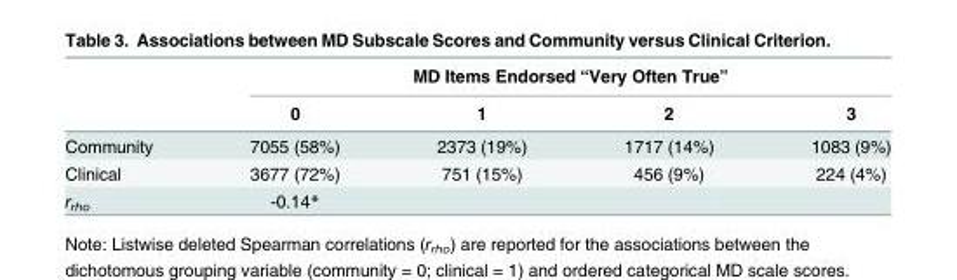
<table><thead><tr><td rowspan="2"></td><td colspan="4">MD Items Endorsed “Very Often True”</td></tr><tr><td>0</td><td>1</td><td>2</td><td>3</td></tr></thead><tbody><tr><td>Community</td><td>7055 (58%)</td><td>2373 (19%)</td><td>1717 (14%)</td><td>1083 (9%)</td></tr><tr><td>Clinical</td><td>3677 (72%)</td><td>751 (15%)</td><td>456 (9%)</td><td>224 (4%)</td></tr><tr><td>r<sub>rho</sub></td><td>-0.14*</td><td></td><td></td><td></td></tr></tbody></table>